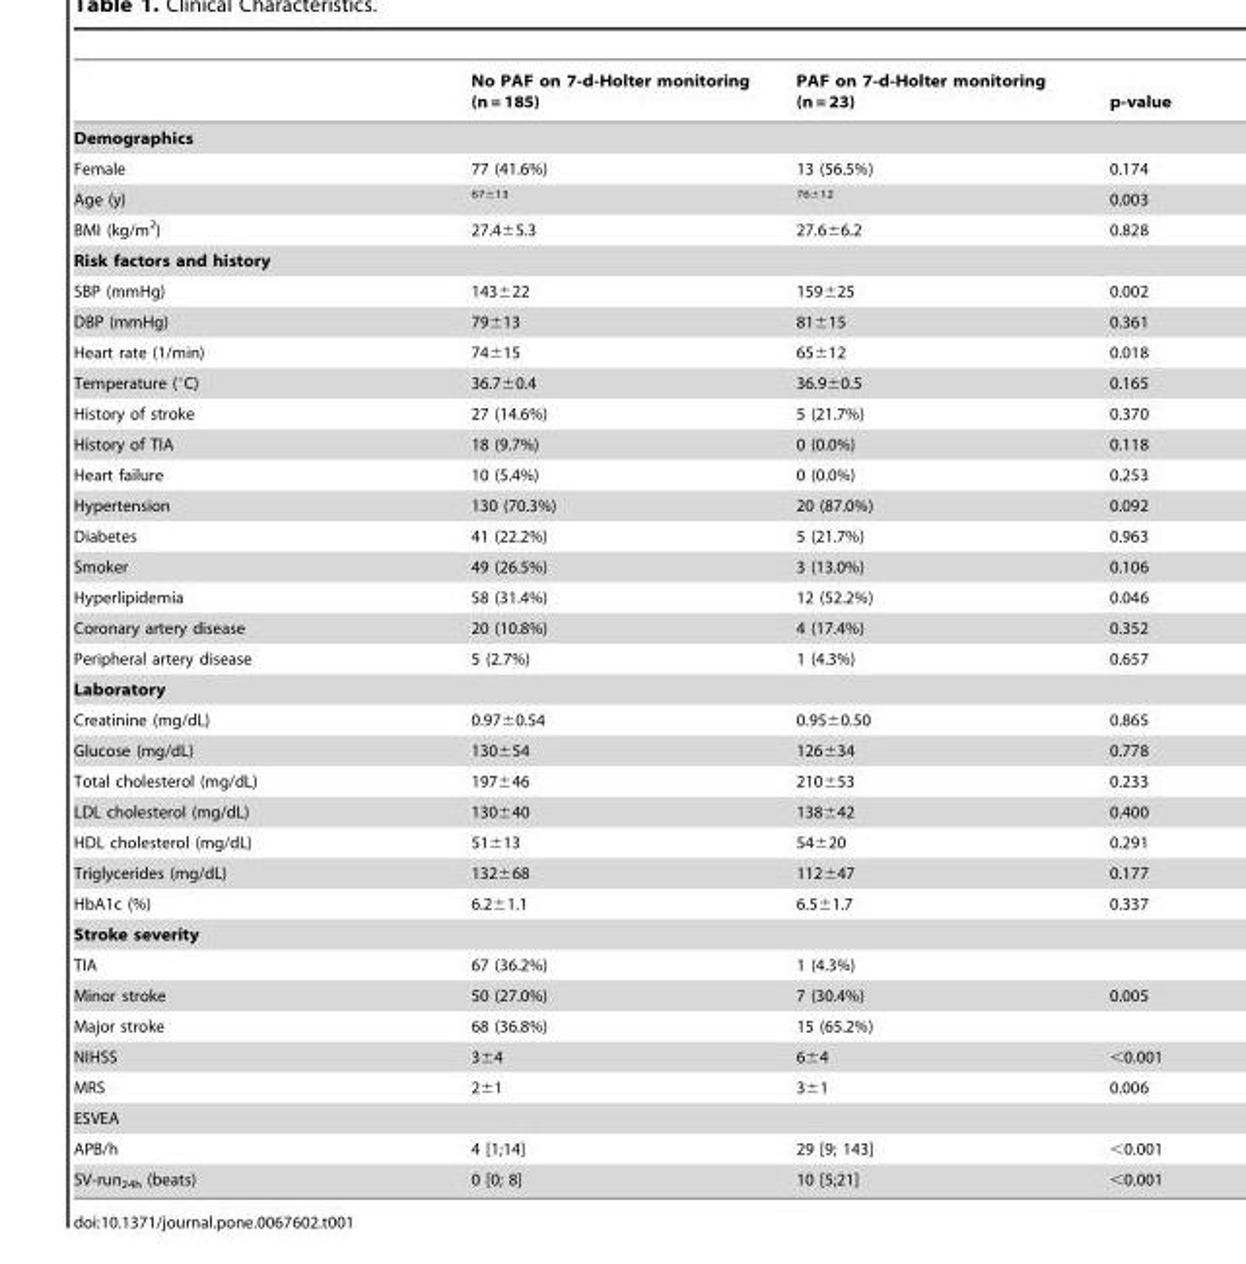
<table><thead><tr><td></td><td>No PAF on 7-d-Holter monitoring (n = 185)</td><td>PAF on 7-d-Holter monitoring (n = 23)</td><td>p-value</td></tr></thead><tbody><tr><td colspan="4">Demographics</td></tr><tr><td>Female</td><td>77 (41.6%)</td><td>13 (56.5%)</td><td>0.174</td></tr><tr><td>Age (y)</td><td><sup>67±13</sup></td><td><sup>76±12</sup></td><td>0.003</td></tr><tr><td>BMI (kg/m<sup>2</sup>)</td><td>27.4±5.3</td><td>27.6±6.2</td><td>0.828</td></tr><tr><td colspan="4">Risk factors and history</td></tr><tr><td>SBP (mmHg)</td><td>143±22</td><td>159±25</td><td>0.002</td></tr><tr><td>DBP (mmHg)</td><td>79±13</td><td>81±15</td><td>0.361</td></tr><tr><td>Heart rate (1/min)</td><td>74±15</td><td>65±12</td><td>0.018</td></tr><tr><td>Temperature (°C)</td><td>36.7±0.4</td><td>36.9±0.5</td><td>0.165</td></tr><tr><td>History of stroke</td><td>27 (14.6%)</td><td>5 (21.7%)</td><td>0.370</td></tr><tr><td>History of TIA</td><td>18 (9.7%)</td><td>0 (0.0%)</td><td>0.118</td></tr><tr><td>Heart failure</td><td>10 (5.4%)</td><td>0 (0.0%)</td><td>0.253</td></tr><tr><td>Hypertension</td><td>130 (70.3%)</td><td>20 (87.0%)</td><td>0.092</td></tr><tr><td>Diabetes</td><td>41 (22.2%)</td><td>5 (21.7%)</td><td>0.963</td></tr><tr><td>Smoker</td><td>49 (26.5%)</td><td>3 (13.0%)</td><td>0.106</td></tr><tr><td>Hyperlipidemia</td><td>58 (31.4%)</td><td>12 (52.2%)</td><td>0.046</td></tr><tr><td>Coronary artery disease</td><td>20 (10.8%)</td><td>4 (17.4%)</td><td>0.352</td></tr><tr><td>Peripheral artery disease</td><td>5 (2.7%)</td><td>1 (4.3%)</td><td>0.657</td></tr><tr><td colspan="4">Laboratory</td></tr><tr><td>Creatinine (mg/dL)</td><td>0.97±0.54</td><td>0.95±0.50</td><td>0.865</td></tr><tr><td>Glucose (mg/dL)</td><td>130±54</td><td>126±34</td><td>0.778</td></tr><tr><td>Total cholesterol (mg/dL)</td><td>197±46</td><td>210±53</td><td>0.233</td></tr><tr><td>LDL cholesterol (mg/dL)</td><td>130±40</td><td>138±42</td><td>0.400</td></tr><tr><td>HDL cholesterol (mg/dL)</td><td>51±13</td><td>54±20</td><td>0.291</td></tr><tr><td>Triglycerides (mg/dL)</td><td>132±68</td><td>112±47</td><td>0.177</td></tr><tr><td>HbA1c (%)</td><td>6.2±1.1</td><td>6.5±1.7</td><td>0.337</td></tr><tr><td colspan="4">Stroke severity</td></tr><tr><td>TIA</td><td>67 (36.2%)</td><td>1 (4.3%)</td><td></td></tr><tr><td>Minor stroke</td><td>50 (27.0%)</td><td>7 (30.4%)</td><td>0.005</td></tr><tr><td>Major stroke</td><td>68 (36.8%)</td><td>15 (65.2%)</td><td></td></tr><tr><td>NIHSS</td><td>3±4</td><td>6±4</td><td>&lt;0.001</td></tr><tr><td>MRS</td><td>2±1</td><td>3±1</td><td>0.006</td></tr><tr><td colspan="4">ESVEA</td></tr><tr><td>APB/h</td><td>4 [1;14]</td><td>29 [9; 143]</td><td>&lt;0.001</td></tr><tr><td>SV-run<sub>24h</sub> (beats)</td><td>0 [0; 8]</td><td>10 [5;21]</td><td>&lt;0.001</td></tr></tbody></table>